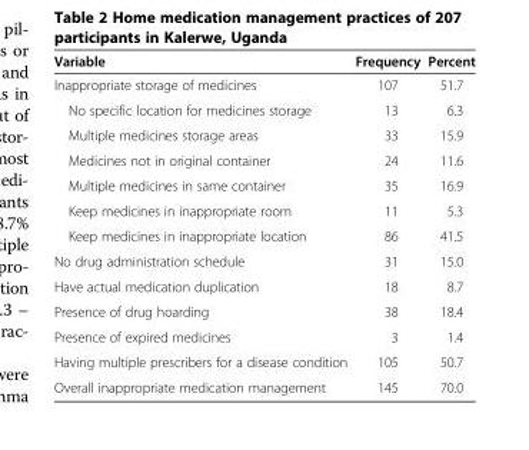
<table><thead><tr><td>Variable</td><td>Frequency</td><td>Percent</td></tr></thead><tbody><tr><td>Inappropriate storage of medicines</td><td>107</td><td>51.7</td></tr><tr><td>No specific location for medicines storage</td><td>13</td><td>6.3</td></tr><tr><td>Multiple medicines storage areas</td><td>33</td><td>15.9</td></tr><tr><td>Medicines not in original container</td><td>24</td><td>11.6</td></tr><tr><td>Multiple medicines in same container</td><td>35</td><td>16.9</td></tr><tr><td>Keep medicines in inappropriate room</td><td>11</td><td>5.3</td></tr><tr><td>Keep medicines in inappropriate location</td><td>86</td><td>41.5</td></tr><tr><td>No drug administration schedule</td><td>31</td><td>15.0</td></tr><tr><td>Have actual medication duplication</td><td>18</td><td>8.7</td></tr><tr><td>Presence of drug hoarding</td><td>38</td><td>18.4</td></tr><tr><td>Presence of expired medicines</td><td>3</td><td>1.4</td></tr><tr><td>Having multiple prescribers for a disease condition</td><td>105</td><td>50.7</td></tr><tr><td>Overall inappropriate medication management</td><td>145</td><td>70.0</td></tr></tbody></table>